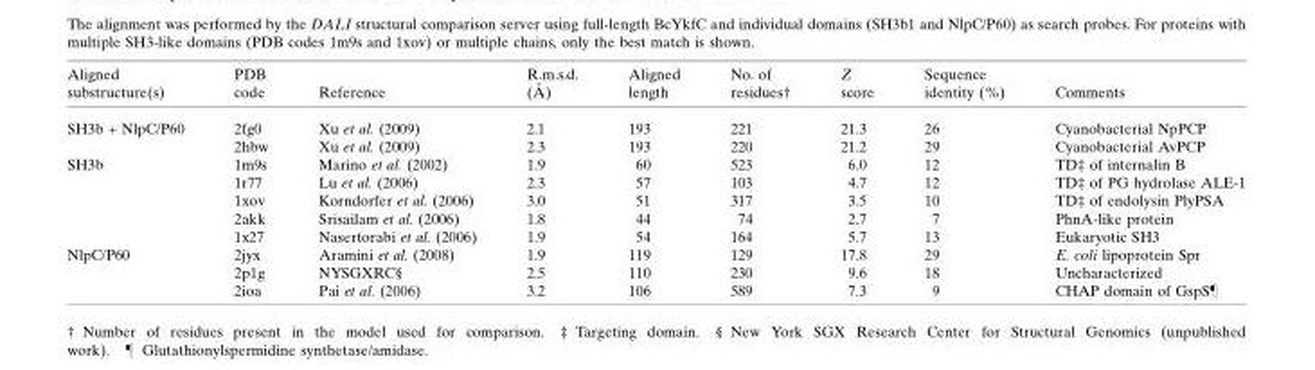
<table><thead><tr><td>Aligned substructure(s)</td><td>PDB code</td><td>Reference</td><td>R.m.s.d. (A˚ )</td><td>Aligned length</td><td>No. of residues†</td><td>Z score</td><td>Sequence identity (%)</td><td>Comments</td></tr></thead><tbody><tr><td rowspan="2">SH3b + NlpC/P60</td><td>2fg0</td><td>Xu et al. (2009)</td><td>2.1</td><td>193</td><td>221</td><td>21.3</td><td>26</td><td>Cyanobacterial NpPCP</td></tr><tr><td>2hbw</td><td>Xu et al. (2009)</td><td>2.3</td><td>193</td><td>220</td><td>21.2</td><td>29</td><td>Cyanobacterial AvPCP</td></tr><tr><td rowspan="5">SH3b</td><td>1m9s</td><td>Marino et al. (2002)</td><td>1.9</td><td>60</td><td>523</td><td>6.0</td><td>12</td><td>TD‡ of internalin B</td></tr><tr><td>1r77</td><td>Lu et al. (2006)</td><td>2.3</td><td>57</td><td>103</td><td>4.7</td><td>12</td><td>TD‡ of PG hydrolase ALE-1</td></tr><tr><td>1xov</td><td>Korndorfer et al. (2006)</td><td>3.0</td><td>51</td><td>317</td><td>3.5</td><td>10</td><td>TD‡ of endolysin PlyPSA</td></tr><tr><td>2akk</td><td>Srisailam et al. (2006)</td><td>1.8</td><td>44</td><td>74</td><td>2.7</td><td>7</td><td>PhnA-like protein</td></tr><tr><td>1x27</td><td>Nasertorabi et al. (2006)</td><td>1.9</td><td>54</td><td>164</td><td>5.7</td><td>13</td><td>Eukaryotic SH3</td></tr><tr><td rowspan="3">NlpC/P60</td><td>2jyx</td><td>Aramini et al. (2008)</td><td>1.9</td><td>119</td><td>129</td><td>17.8</td><td>29</td><td>E. coli lipoprotein Spr</td></tr><tr><td>2p1g</td><td>NYSGXRC§</td><td>2.5</td><td>110</td><td>230</td><td>9.6</td><td>18</td><td>Uncharacterized</td></tr><tr><td>2ioa</td><td>Pai et al. (2006)</td><td>3.2</td><td>106</td><td>589</td><td>7.3</td><td>9</td><td>CHAP domain of GspS¶</td></tr></tbody></table>